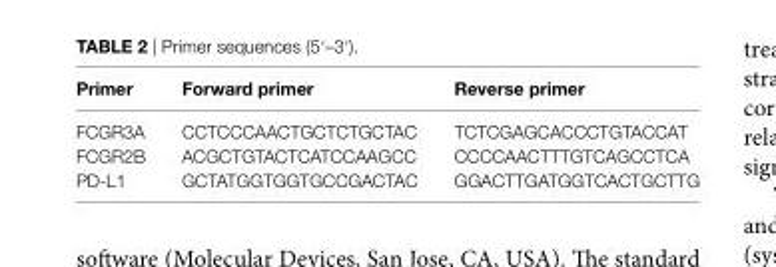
<table><thead><tr><td>Primer</td><td>Forward primer</td><td>reverse primer</td></tr></thead><tbody><tr><td>FCGR3A</td><td>CCTCCCAACTGCTCTGCTAC</td><td>TCTCGAGCACCCTGTACCAT</td></tr><tr><td>FCGR2B</td><td>ACGCTGTACTCATCCAAGCC</td><td>CCCCAACTTTGTCAGCCTCA</td></tr><tr><td>PD-L1</td><td>GCTATGGTGGTGCCGACTAC</td><td>GGACTTGATGGTCACTGCTTG</td></tr></tbody></table>